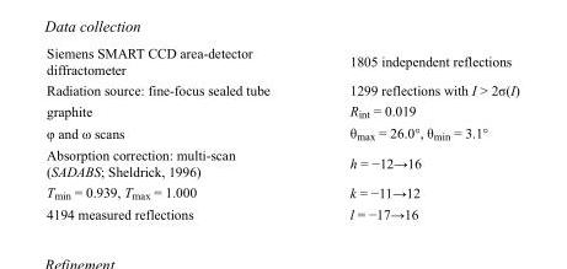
<table><tbody><tr><td>Siemens SMART CCD area-detector diffractometer</td><td>1805 independent reflections</td></tr><tr><td>Radiation source: fine-focus sealed tube</td><td>1299 reflections with I &gt; 2σ(I)</td></tr><tr><td>graphite</td><td>R<sub>int</sub> = 0.019</td></tr><tr><td>φ and ω scans</td><td>θ<sub>max</sub> = 26.0°, θ<sub>min</sub> = 3.1°</td></tr><tr><td>Absorption correction: multi-scan (SADABS; Sheldrick, 1996)</td><td>h = −12→16</td></tr><tr><td>T<sub>min</sub> = 0.939, T<sub>max</sub> = 1.000</td><td>k = −11→12</td></tr><tr><td>4194 measured reflections</td><td>l = −17→16</td></tr></tbody></table>